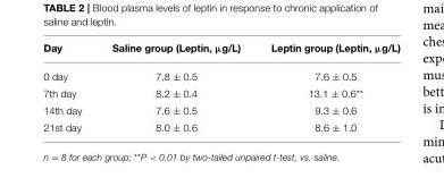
<table><thead><tr><td>Day</td><td>Saline group (Leptin, µg/L)</td><td>Leptin group (Leptin, µg/L)</td></tr></thead><tbody><tr><td>0 day</td><td>7.8 ± 0.5</td><td>7.6 ± 0.5</td></tr><tr><td>7th day</td><td>8.2 ± 0.4</td><td>13.1 ± 0.6**</td></tr><tr><td>14th day</td><td>7.6 ± 0.5</td><td>9.3 ± 0.6</td></tr><tr><td>21st day</td><td>8.0 ± 0.6</td><td>8.6 ± 1.0</td></tr></tbody></table>